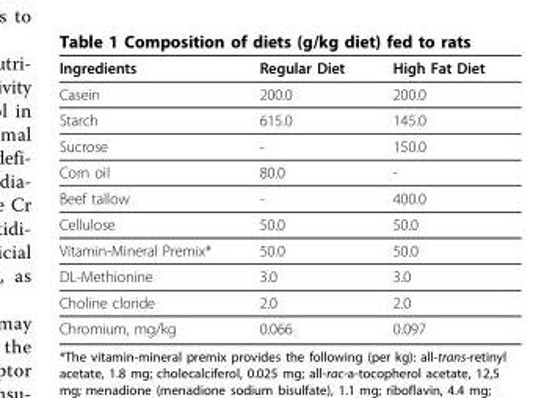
<table><thead><tr><td>Ingredients</td><td>Regular Diet</td><td>High Fat Diet</td></tr></thead><tbody><tr><td>Casein</td><td>200.0</td><td>200.0</td></tr><tr><td>Starch</td><td>615.0</td><td>145.0</td></tr><tr><td>Sucrose</td><td>-</td><td>150.0</td></tr><tr><td>Corn oil</td><td>80.0</td><td>-</td></tr><tr><td>Beef tallow</td><td>-</td><td>400.0</td></tr><tr><td>Cellulose</td><td>50.0</td><td>50.0</td></tr><tr><td>Vitamin-Mineral Premix*</td><td>50.0</td><td>50.0</td></tr><tr><td>DL-Methionine</td><td>3.0</td><td>3.0</td></tr><tr><td>Choline cloride</td><td>2.0</td><td>2.0</td></tr><tr><td>Chromium, mg/kg</td><td>0.066</td><td>0.097</td></tr></tbody></table>